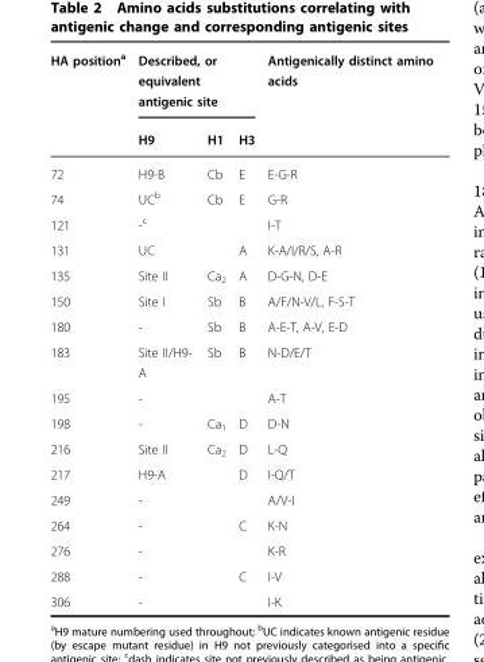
<table><thead><tr><td rowspan="2">HA position<sup>a</sup></td><td colspan="3">Described, or equivalent antigenic site</td><td rowspan="2">Antigenically distinct amino acids</td></tr><tr><td>H9</td><td>H1</td><td>H3</td></tr></thead><tbody><tr><td>72</td><td>H9-B</td><td>Cb</td><td>E</td><td>E-G-R</td></tr><tr><td>74</td><td>UC<sup>b</sup></td><td>Cb</td><td>E</td><td>G-R</td></tr><tr><td>121</td><td>-<sup>c</sup></td><td></td><td></td><td>I-T</td></tr><tr><td>131</td><td>UC</td><td></td><td>A</td><td>K-A/I/R/S, A-R</td></tr><tr><td>135</td><td>Site II</td><td>Ca<sub>2</sub></td><td>A</td><td>D-G-N, D-E</td></tr><tr><td>150</td><td>Site I</td><td>Sb</td><td>B</td><td>A/F/N-V/L, F-S-T</td></tr><tr><td>180</td><td>-</td><td>Sb</td><td>B</td><td>A-E-T, A-V, E-D</td></tr><tr><td>183</td><td>Site II/H9- A</td><td>Sb</td><td>B</td><td>N-D/E/T</td></tr><tr><td>195</td><td>-</td><td></td><td></td><td>A-T</td></tr><tr><td>198</td><td>-</td><td>Ca<sub>1</sub></td><td>D</td><td>D-N</td></tr><tr><td>216</td><td>Site II</td><td>Ca<sub>2</sub></td><td>D</td><td>L-Q</td></tr><tr><td>217</td><td>H9-A</td><td></td><td>D</td><td>I-Q/T</td></tr><tr><td>249</td><td>-</td><td></td><td></td><td>A/V-I</td></tr><tr><td>264</td><td>-</td><td></td><td>C</td><td>K-N</td></tr><tr><td>276</td><td>-</td><td></td><td></td><td>K-R</td></tr><tr><td>288</td><td>-</td><td></td><td>C</td><td>I-V</td></tr><tr><td>306</td><td>-</td><td></td><td></td><td>I-K</td></tr></tbody></table>